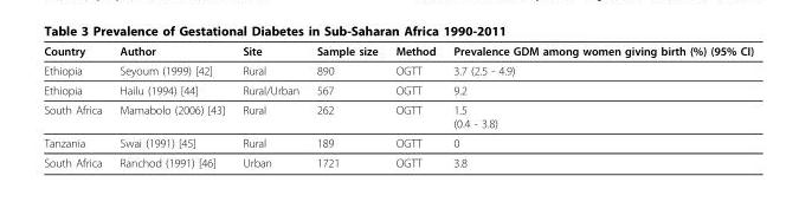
<table><thead><tr><td>Country</td><td>Author</td><td>Site</td><td>Sample size</td><td>Method</td><td>Prevalence GDM among women giving birth (%) (95% CI)</td></tr></thead><tbody><tr><td>Ethiopia</td><td>Seyoum (1999) [42]</td><td>Rural</td><td>890</td><td>OGTT</td><td>3.7 (2.5 - 4.9)</td></tr><tr><td>Ethiopia</td><td>Hailu (1994) [44]</td><td>Rural/Urban</td><td>567</td><td>OGTT</td><td>9.2</td></tr><tr><td>South Africa</td><td>Mamabolo (2006) [43]</td><td>Rural</td><td>262</td><td>OGTT</td><td>1.5 (0.4 - 3.8)</td></tr><tr><td>Tanzania</td><td>Swai (1991) [45]</td><td>Rural</td><td>189</td><td>OGTT</td><td>0</td></tr><tr><td>South Africa</td><td>Ranchod (1991) [46]</td><td>Urban</td><td>1721</td><td>OGTT</td><td>3.8</td></tr></tbody></table>